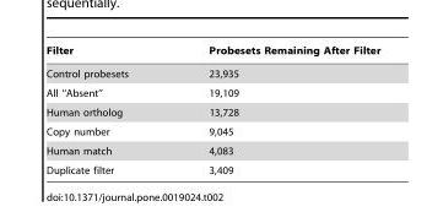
<table><thead><tr><td>Filter</td><td>Probesets Remaining After Filter</td></tr></thead><tbody><tr><td>Control probesets</td><td>23,935</td></tr><tr><td>All ‘‘Absent’’</td><td>19,109</td></tr><tr><td>Human ortholog</td><td>13,728</td></tr><tr><td>Copy number</td><td>9,045</td></tr><tr><td>Human match</td><td>4,083</td></tr><tr><td>Duplicate filter</td><td>3,409</td></tr></tbody></table>